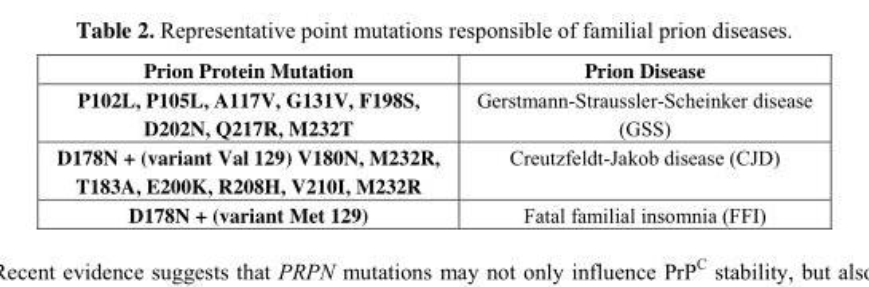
<table><thead><tr><td>Prion Protein Mutation</td><td>Prion Disease</td></tr></thead><tbody><tr><td>P102L, P105L, A117V, G131V, F198S, D202N, Q217R, M232T</td><td>Gerstmann-Straussler-Scheinker disease (GSS)</td></tr><tr><td>D178N + (variant Val 129) V180N, M232R, T183A, E200K, R208H, V210I, M232R</td><td>Creutzfeldt-Jakob disease (CJD)</td></tr><tr><td>D178N + (variant Met 129)</td><td>Fatal familial insomnia (FFI)</td></tr></tbody></table>